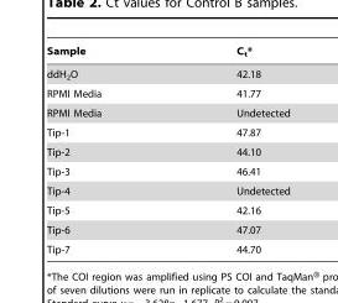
<table><thead><tr><td>Sample</td><td>C<sub>t</sub>*</td></tr></thead><tbody><tr><td>ddH<sub>2</sub>O</td><td>42.18</td></tr><tr><td>RPMI Media</td><td>41.77</td></tr><tr><td>RPMI Media</td><td>Undetected</td></tr><tr><td>Tip-1</td><td>47.87</td></tr><tr><td>Tip-2</td><td>44.10</td></tr><tr><td>Tip-3</td><td>46.41</td></tr><tr><td>Tip-4</td><td>Undetected</td></tr><tr><td>Tip-5</td><td>42.16</td></tr><tr><td>Tip-6</td><td>47.07</td></tr><tr><td>Tip-7</td><td>44.70</td></tr></tbody></table>